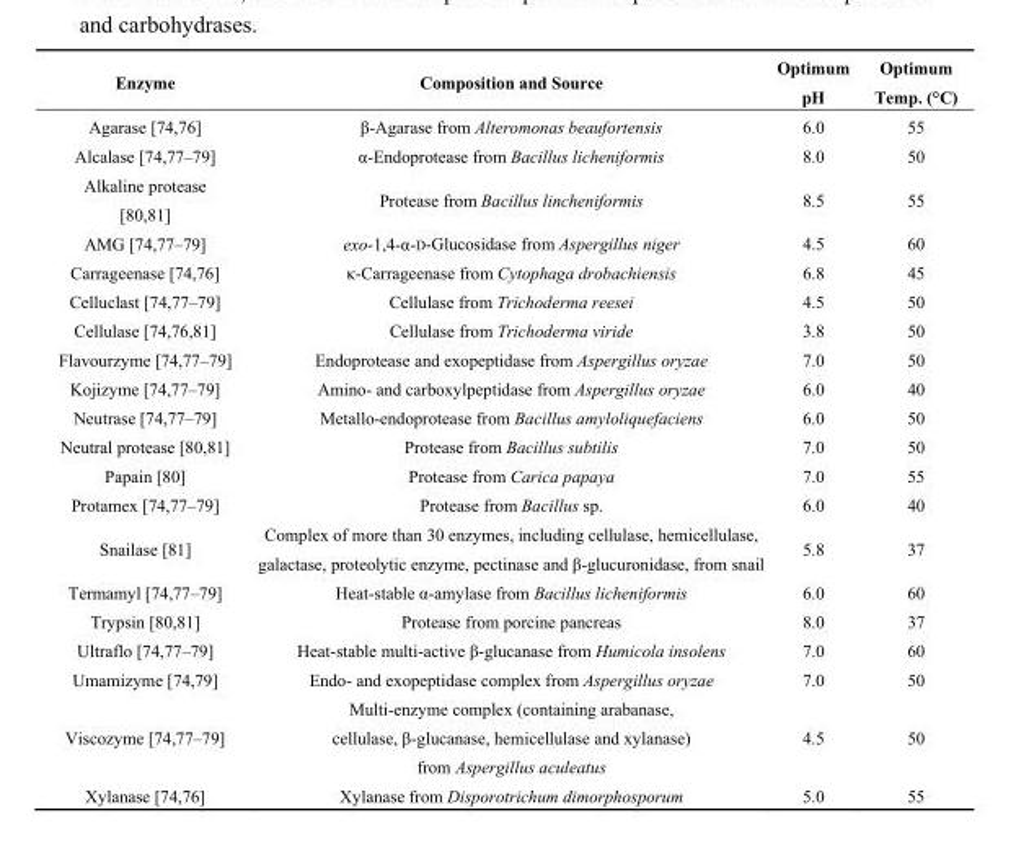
<table><thead><tr><td>Enzyme</td><td>Composition and Source</td><td>Optimum pH</td><td>Optimum Temp. (°C)</td></tr></thead><tbody><tr><td>Agarase [74,76]</td><td>β-Agarase from Alteromonas beaufortensis</td><td>6.0</td><td>55</td></tr><tr><td>Alcalase [74,77–79]</td><td>α-Endoprotease from Bacillus licheniformis</td><td>8.0</td><td>50</td></tr><tr><td>Alkaline protease [80,81]</td><td>Protease from Bacillus lincheniformis</td><td>8.5</td><td>55</td></tr><tr><td>AMG [74,77–79]</td><td>exo-1,4-α-D-Glucosidase from Aspergillus niger</td><td>4.5</td><td>60</td></tr><tr><td>Carrageenase [74,76]</td><td>κ-Carrageenase from Cytophaga drobachiensis</td><td>6.8</td><td>45</td></tr><tr><td>Celluclast [74,77–79]</td><td>Cellulase from Trichoderma reesei</td><td>4.5</td><td>50</td></tr><tr><td>Cellulase [74,76,81]</td><td>Cellulase from Trichoderma viride</td><td>3.8</td><td>50</td></tr><tr><td>Flavourzyme [74,77–79]</td><td>Endoprotease and exopeptidase from Aspergillus oryzae</td><td>7.0</td><td>50</td></tr><tr><td>Kojizyme [74,77–79]</td><td>Amino- and carboxylpeptidase from Aspergillus oryzae</td><td>6.0</td><td>40</td></tr><tr><td>Neutrase [74,77–79]</td><td>Metallo-endoprotease from Bacillus amyloliquefaciens</td><td>6.0</td><td>50</td></tr><tr><td>Neutral protease [80,81]</td><td>Protease from Bacillus subtilis</td><td>7.0</td><td>50</td></tr><tr><td>Papain [80]</td><td>Protease from Carica papaya</td><td>7.0</td><td>55</td></tr><tr><td>Protamex [74,77–79]</td><td>Protease from Bacillus sp.</td><td>6.0</td><td>40</td></tr><tr><td>Snailase [81]</td><td>Complex of more than 30 enzymes, including cellulase, hemicellulase, galactase, proteolytic enzyme, pectinase and β-glucuronidase, from snail</td><td>5.8</td><td>37</td></tr><tr><td>Termamyl [74,77–79]</td><td>Heat-stable α-amylase from Bacillus licheniformis</td><td>6.0</td><td>60</td></tr><tr><td>Trypsin [80,81]</td><td>Protease from porcine pancreas</td><td>8.0</td><td>37</td></tr><tr><td>Ultraflo [74,77–79]</td><td>Heat-stable multi-active β-glucanase from Humicola insolens</td><td>7.0</td><td>60</td></tr><tr><td>Umamizyme [74,79]</td><td>Endo- and exopeptidase complex from Aspergillus oryzae</td><td>7.0</td><td>50</td></tr><tr><td>Viscozyme [74,77–79]</td><td>Multi-enzyme complex (containing arabanase, cellulase, β-glucanase, hemicellulase and xylanase) from Aspergillus aculeatus</td><td>4.5</td><td>50</td></tr><tr><td>Xylanase [74,76]</td><td>Xylanase from Disporotrichum dimorphosporum</td><td>5.0</td><td>55</td></tr></tbody></table>